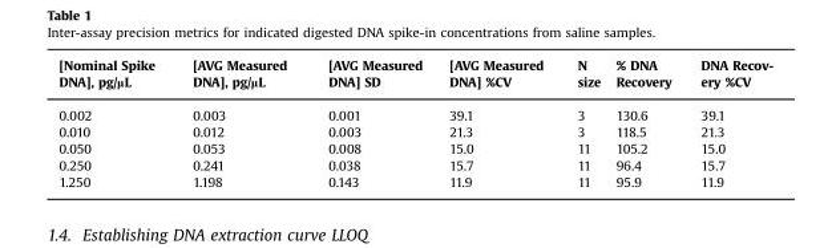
<table><thead><tr><td>[Nominal Spike DNA], pg/µL</td><td>[AVG Measured DNA], pg/µL</td><td>[AVG Measured DNA] SD</td><td>[AVG Measured DNA] %CV</td><td>N size</td><td>% DNA Recovery</td><td>DNA Recov- ery %CV</td></tr></thead><tbody><tr><td>0.002</td><td>0.003</td><td>0.001</td><td>39.1</td><td>3</td><td>130.6</td><td>39.1</td></tr><tr><td>0.010</td><td>0.012</td><td>0.003</td><td>21.3</td><td>3</td><td>118.5</td><td>21.3</td></tr><tr><td>0.050</td><td>0.053</td><td>0.008</td><td>15.0</td><td>11</td><td>105.2</td><td>15.0</td></tr><tr><td>0.250</td><td>0.241</td><td>0.038</td><td>15.7</td><td>11</td><td>96.4</td><td>15.7</td></tr><tr><td>1.250</td><td>1.198</td><td>0.143</td><td>11.9</td><td>11</td><td>95.9</td><td>11.9</td></tr></tbody></table>